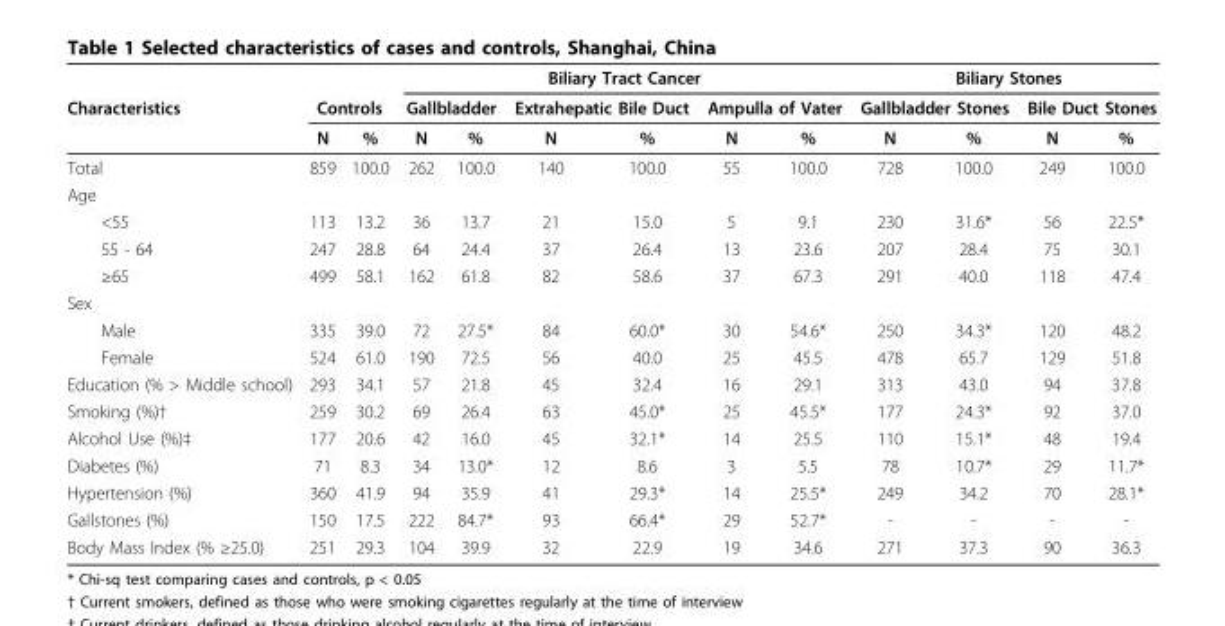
<table><thead><tr><td rowspan="3">Characteristics</td><td></td><td></td><td colspan="6">Biliary Tract Cancer</td><td colspan="4">Biliary Stones</td></tr><tr><td colspan="2">Controls</td><td colspan="2">Gallbladder</td><td colspan="2">Extrahepatic Bile Duct</td><td colspan="2">Ampulla of Vater</td><td colspan="2">Gallbladder Stones</td><td colspan="2">Bile Duct Stones</td></tr><tr><td>N</td><td>%</td><td>N</td><td>%</td><td>N</td><td>%</td><td>N</td><td>%</td><td>N</td><td>%</td><td>N</td><td>%</td></tr></thead><tbody><tr><td>Total</td><td>859</td><td>100.0</td><td>262</td><td>100.0</td><td>140</td><td>100.0</td><td>55</td><td>100.0</td><td>728</td><td>100.0</td><td>249</td><td>100.0</td></tr><tr><td colspan="13">Age</td></tr><tr><td>&lt;55</td><td>113</td><td>13.2</td><td>36</td><td>13.7</td><td>21</td><td>15.0</td><td>5</td><td>9.1</td><td>230</td><td>31.6*</td><td>56</td><td>22.5*</td></tr><tr><td>55 - 64</td><td>247</td><td>28.8</td><td>64</td><td>24.4</td><td>37</td><td>26.4</td><td>13</td><td>23.6</td><td>207</td><td>28.4</td><td>75</td><td>30.1</td></tr><tr><td>≥65</td><td>499</td><td>58.1</td><td>162</td><td>61.8</td><td>82</td><td>58.6</td><td>37</td><td>67.3</td><td>291</td><td>40.0</td><td>118</td><td>47.4</td></tr><tr><td colspan="13">Sex</td></tr><tr><td>Male</td><td>335</td><td>39.0</td><td>72</td><td>27.5*</td><td>84</td><td>60.0*</td><td>30</td><td>54.6*</td><td>250</td><td>34.3*</td><td>120</td><td>48.2</td></tr><tr><td>Female</td><td>524</td><td>61.0</td><td>190</td><td>72.5</td><td>56</td><td>40.0</td><td>25</td><td>45.5</td><td>478</td><td>65.7</td><td>129</td><td>51.8</td></tr><tr><td>Education (% &gt; Middle school)</td><td>293</td><td>34.1</td><td>57</td><td>21.8</td><td>45</td><td>32.4</td><td>16</td><td>29.1</td><td>313</td><td>43.0</td><td>94</td><td>37.8</td></tr><tr><td>Smoking (%)†</td><td>259</td><td>30.2</td><td>69</td><td>26.4</td><td>63</td><td>45.0*</td><td>25</td><td>45.5*</td><td>177</td><td>24.3*</td><td>92</td><td>37.0</td></tr><tr><td>Alcohol Use (%)‡</td><td>177</td><td>20.6</td><td>42</td><td>16.0</td><td>45</td><td>32.1*</td><td>14</td><td>25.5</td><td>110</td><td>15.1*</td><td>48</td><td>19.4</td></tr><tr><td>Diabetes (%)</td><td>71</td><td>8.3</td><td>34</td><td>13.0*</td><td>12</td><td>8.6</td><td>3</td><td>5.5</td><td>78</td><td>10.7*</td><td>29</td><td>11.7*</td></tr><tr><td>Hypertension (%)</td><td>360</td><td>41.9</td><td>94</td><td>35.9</td><td>41</td><td>29.3*</td><td>14</td><td>25.5*</td><td>249</td><td>34.2</td><td>70</td><td>28.1*</td></tr><tr><td>Gallstones (%)</td><td>150</td><td>17.5</td><td>222</td><td>84.7*</td><td>93</td><td>66.4*</td><td>29</td><td>52.7*</td><td>-</td><td>-</td><td>-</td><td>-</td></tr><tr><td>Body Mass Index (% ≥25.0)</td><td>251</td><td>29.3</td><td>104</td><td>39.9</td><td>32</td><td>22.9</td><td>19</td><td>34.6</td><td>271</td><td>37.3</td><td>90</td><td>36.3</td></tr></tbody></table>